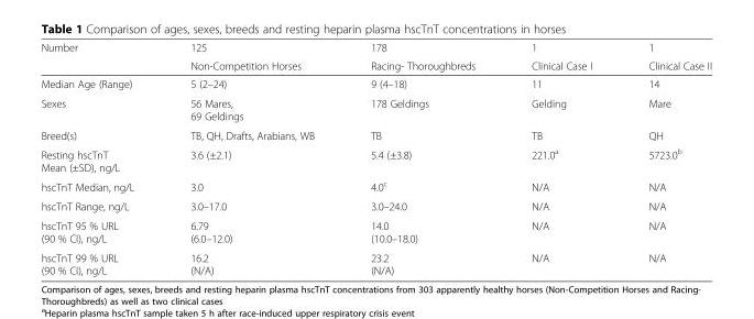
<table><thead><tr><td rowspan="2">Number</td><td rowspan="2">125 Non-Competition Horses</td><td rowspan="2">178 Racing- Thoroughbreds</td><td rowspan="2">1 Clinical Case I</td><td rowspan="2">1 Clinical Case II</td></tr><tr></tr></thead><tbody><tr><td>Median Age (Range)</td><td>5 (2–24)</td><td>9 (4–18)</td><td>11</td><td>14</td></tr><tr><td>Sexes</td><td>56 Mares, 69 Geldings</td><td>178 Geldings</td><td>Gelding</td><td>Mare</td></tr><tr><td>Breed(s)</td><td>TB, QH, Drafts, Arabians, WB</td><td>TB</td><td>TB</td><td>QH</td></tr><tr><td>Resting hscTnT Mean (±SD), ng/L</td><td>3.6 (±2.1)</td><td>5.4 (±3.8)</td><td>221.0<sup>a</sup></td><td>5723.0<sup>b</sup></td></tr><tr><td>hscTnT Median, ng/L</td><td>3.0</td><td>4.0<sup>c</sup></td><td>N/A</td><td>N/A</td></tr><tr><td>hscTnT Range, ng/L</td><td>3.0–17.0</td><td>3.0–24.0</td><td>N/A</td><td>N/A</td></tr><tr><td>hscTnT 95 % URL (90 % CI), ng/L</td><td>6.79 (6.0–12.0)</td><td>14.0 (10.0–18.0)</td><td>N/A</td><td>N/A</td></tr><tr><td>hscTnT 99 % URL (90 % CI), ng/L</td><td>16.2 (N/A)</td><td>23.2 (N/A)</td><td>N/A</td><td>N/A</td></tr></tbody></table>